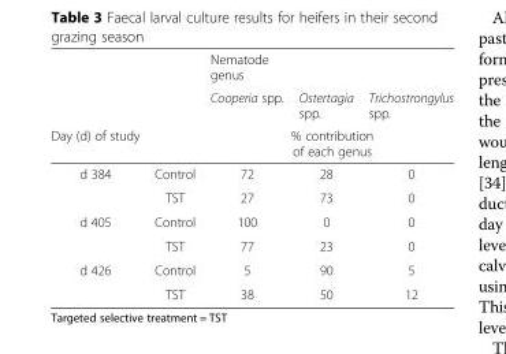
<table><thead><tr><td rowspan="3">Day (d) of study</td><td rowspan="3"></td><td colspan="3">Nematode genus</td></tr><tr><td>Cooperia spp.</td><td>Ostertagia spp.</td><td>Trichostrongylus spp.</td></tr><tr><td colspan="3">% contribution of each genus</td></tr></thead><tbody><tr><td rowspan="2">d 384</td><td>Control</td><td>72</td><td>28</td><td>0</td></tr><tr><td>TST</td><td>27</td><td>73</td><td>0</td></tr><tr><td rowspan="2">d 405</td><td>Control</td><td>100</td><td>0</td><td>0</td></tr><tr><td>TST</td><td>77</td><td>23</td><td>0</td></tr><tr><td rowspan="2">d 426</td><td>Control</td><td>5</td><td>90</td><td>5</td></tr><tr><td>TST</td><td>38</td><td>50</td><td>12</td></tr></tbody></table>